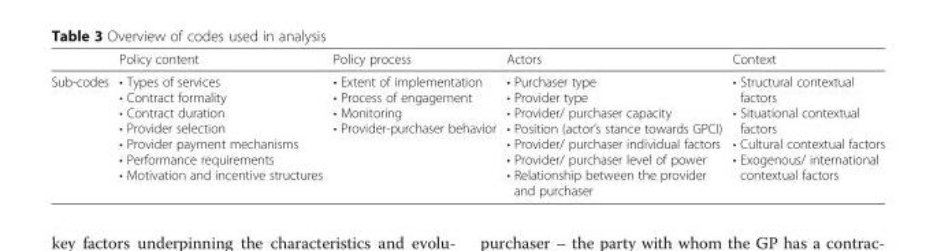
<table><thead><tr><td></td><td>Policy content</td><td>Policy process</td><td>Actors</td><td>Context</td></tr></thead><tbody><tr><td>Sub-codes</td><td>• Types of services • Contract formality • Contract duration • Provider selection • Provider payment mechanisms • Performance requirements • Motivation and incentive structures</td><td>• Extent of implementation • Process of engagement • Monitoring • Provider-purchaser behavior</td><td>• Purchaser type • Provider type • Provider/ purchaser capacity • Position (actor’s stance towards GPCI) • Provider/ purchaser individual factors • Provider/ purchaser level of power • Relationship between the provider and purchaser</td><td>• Structural contextual factors • Situational contextual factors • Cultural contextual factors • Exogenous/ international contextual factors</td></tr></tbody></table>